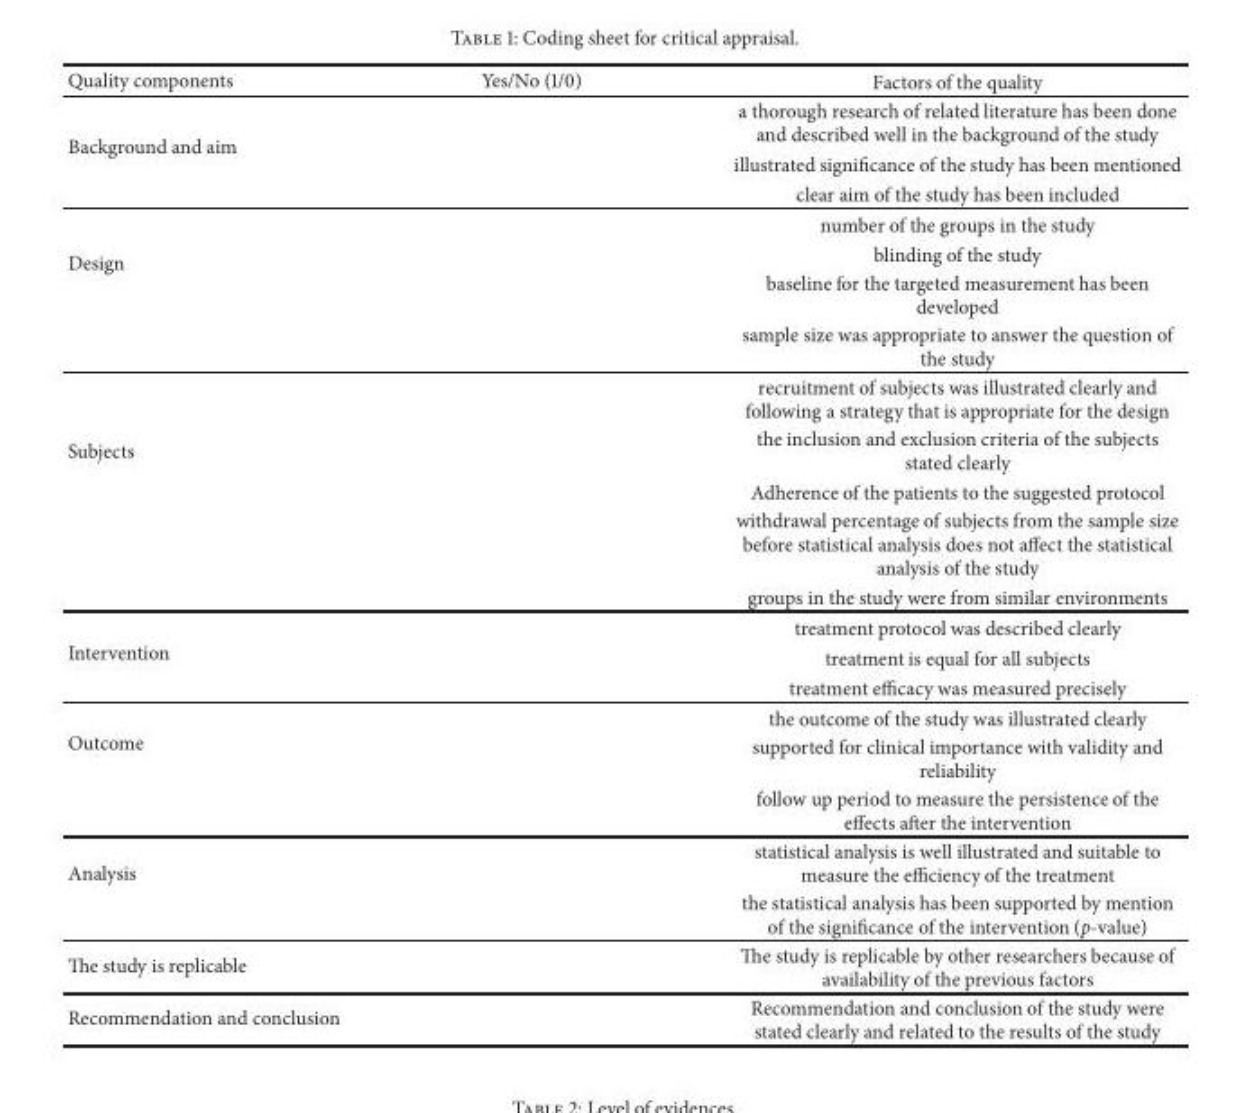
<table><thead><tr><td>Quality components</td><td>Yes/No (1/0)</td><td>Factors of the quality</td></tr></thead><tbody><tr><td rowspan="3">Background and aim</td><td></td><td>a thorough research of related literature has been done and described well in the background of the study</td></tr><tr><td></td><td>illustrated significance of the study has been mentioned</td></tr><tr><td></td><td>clear aim of the study has been included</td></tr><tr><td rowspan="4">Design</td><td></td><td>number of the groups in the study</td></tr><tr><td></td><td>blinding of the study</td></tr><tr><td></td><td>baseline for the targeted measurement has been developed</td></tr><tr><td></td><td>sample size was appropriate to answer the question of the study</td></tr><tr><td rowspan="5">Subjects</td><td></td><td>recruitment of subjects was illustrated clearly and following a strategy that is appropriate for the design</td></tr><tr><td></td><td>the inclusion and exclusion criteria of the subjects stated clearly</td></tr><tr><td></td><td>Adherence of the patients to the suggested protocol</td></tr><tr><td></td><td>withdrawal percentage of subjects from the sample size before statistical analysis does not affect the statistical analysis of the study</td></tr><tr><td></td><td>groups in the study were from similar environments</td></tr><tr><td rowspan="3">Intervention</td><td></td><td>treatment protocol was described clearly</td></tr><tr><td></td><td>treatment is equal for all subjects</td></tr><tr><td></td><td>treatment efficacy was measured precisely</td></tr><tr><td rowspan="3">Outcome</td><td></td><td>the outcome of the study was illustrated clearly</td></tr><tr><td></td><td>supported for clinical importance with validity and reliability</td></tr><tr><td></td><td>follow up period to measure the persistence of the effects after the intervention</td></tr><tr><td rowspan="2">Analysis</td><td></td><td>statistical analysis is well illustrated and suitable to measure the efficiency of the treatment</td></tr><tr><td></td><td>the statistical analysis has been supported by mention of the significance of the intervention (p-value)</td></tr><tr><td>The study is replicable</td><td></td><td>The study is replicable by other researchers because of availability of the previous factors</td></tr><tr><td>Recommendation and conclusion</td><td></td><td>Recommendation and conclusion of the study were stated clearly and related to the results of the study</td></tr></tbody></table>